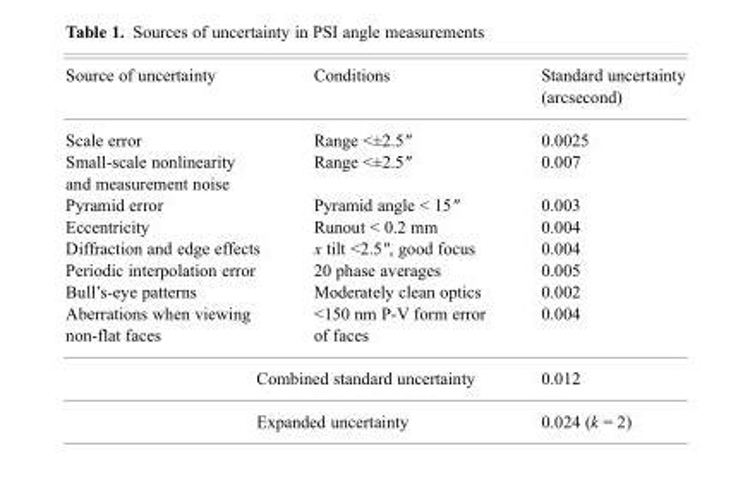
<table><thead><tr><td>Source of uncertainty</td><td>Conditions</td><td>Standard uncertainty (arcsecond)</td></tr></thead><tbody><tr><td>Scale error</td><td>Range &lt;±2.5&quot;</td><td>0.0025</td></tr><tr><td>Small-scale nonlinearity and measurement noise</td><td>Range &lt;±2.5&quot;</td><td>0.007</td></tr><tr><td>Pyramid error</td><td>Pyramid angle &lt; 15&quot;</td><td>0.003</td></tr><tr><td>Eccentricity</td><td>Runout &lt; 0.2 mm</td><td>0.004</td></tr><tr><td>Diffraction and edge effects</td><td>x tilt &lt;2.5&quot;, good focus</td><td>0.004</td></tr><tr><td>Periodic interpolation error</td><td>20 phase averages</td><td>0.005</td></tr><tr><td>Bull’s-eye patterns</td><td>Moderately clean optics</td><td>0.002</td></tr><tr><td>Aberrations when viewing non-flat faces</td><td>&lt;150 nm P-V form error of faces</td><td>0.004</td></tr><tr><td colspan="2">Combined standard uncertainty</td><td>0.012</td></tr><tr><td colspan="2">Expanded uncertainty</td><td>0.024 (k = 2)</td></tr></tbody></table>